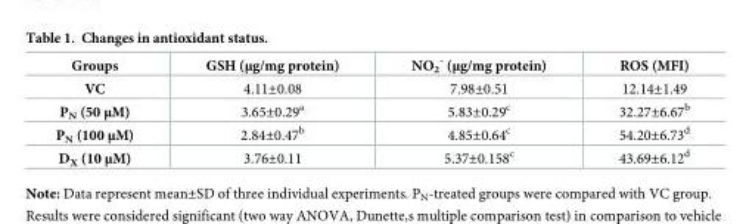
<table><thead><tr><td>Groups</td><td>GSH (μg/mg protein)</td><td>NO<sub>2</sub> <sup>-</sup> (μg/mg protein)</td><td>ROS (MFI)</td></tr></thead><tbody><tr><td>VC</td><td>4.11±0.08</td><td>7.98±0.51</td><td>12.14±1.49</td></tr><tr><td>P<sub>N</sub> (50 μM)</td><td>3.65±0.29<sup>a</sup></td><td>5.83±0.29<sup>c</sup></td><td>32.27±6.67<sup>b</sup></td></tr><tr><td>P<sub>N</sub> (100 μM)</td><td>2.84±0.47<sup>b</sup></td><td>4.85±0.64<sup>c</sup></td><td>54.20±6.73<sup>d</sup></td></tr><tr><td>D<sub>X</sub> (10 μM)</td><td>3.76±0.11</td><td>5.37±0.158<sup>c</sup></td><td>43.69±6.12<sup>d</sup></td></tr></tbody></table>